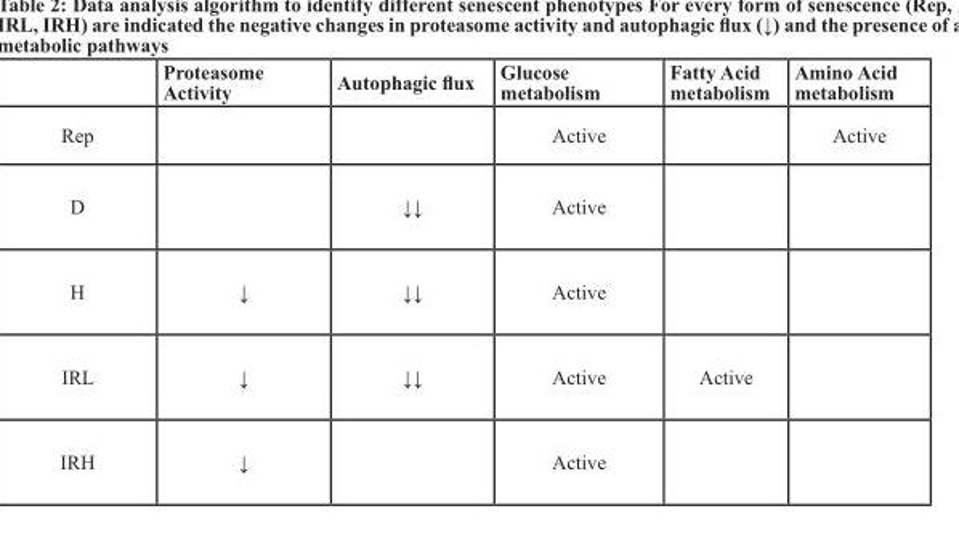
<table><thead><tr><td></td><td>Proteasome Activity</td><td>Autophagic flux</td><td>Glucose metabolism</td><td>Fatty Acid metabolism</td><td>Amino Acid metabolism</td></tr></thead><tbody><tr><td>Rep</td><td></td><td></td><td>Active</td><td></td><td>Active</td></tr><tr><td>D</td><td></td><td>↓↓</td><td>Active</td><td></td><td></td></tr><tr><td>H</td><td>↓</td><td>↓↓</td><td>Active</td><td></td><td></td></tr><tr><td>IRL</td><td>↓</td><td>↓↓</td><td>Active</td><td>Active</td><td></td></tr><tr><td>IRH</td><td>↓</td><td></td><td>Active</td><td></td><td></td></tr></tbody></table>